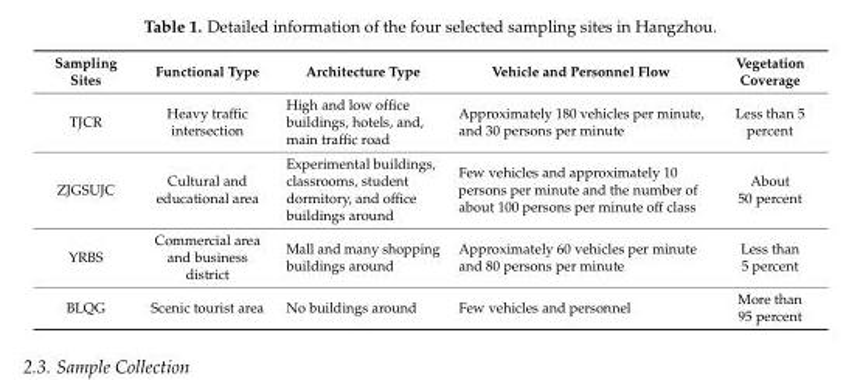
<table><thead><tr><td>Sampling Sites</td><td>Functional Type</td><td>Architecture Type</td><td>Vehicle and Personnel Flow</td><td>Vegetation Coverage</td></tr></thead><tbody><tr><td>TJCR</td><td>Heavy traffic intersection</td><td>High and low office buildings, hotels, and, main traffic road</td><td>Approximately 180 vehicles per minute, and 30 persons per minute</td><td>Less than 5 percent</td></tr><tr><td>ZJGSUJC</td><td>Cultural and educational area</td><td>Experimental buildings, classrooms, student dormitory, and office buildings around</td><td>Few vehicles and approximately 10 persons per minute and the number of about 100 persons per minute off class</td><td>About 50 percent</td></tr><tr><td>YRBS</td><td>Commercial area and business district</td><td>Mall and many shopping buildings around</td><td>Approximately 60 vehicles per minute and 80 persons per minute</td><td>Less than 5 percent</td></tr><tr><td>BLQG</td><td>Scenic tourist area</td><td>No buildings around</td><td>Few vehicles and personnel</td><td>More than 95 percent</td></tr></tbody></table>